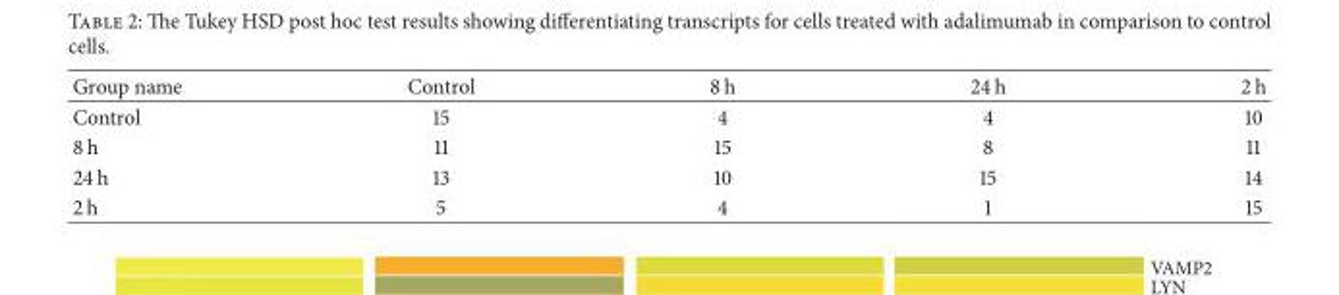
<table><thead><tr><td>Group name</td><td>Control</td><td>8 h</td><td>24 h</td><td>2 h</td></tr></thead><tbody><tr><td>Control</td><td>15</td><td>4</td><td>4</td><td>10</td></tr><tr><td>8 h</td><td>11</td><td>15</td><td>8</td><td>11</td></tr><tr><td>24 h</td><td>13</td><td>10</td><td>15</td><td>14</td></tr><tr><td>2 h</td><td>5</td><td>4</td><td>1</td><td>15</td></tr></tbody></table>